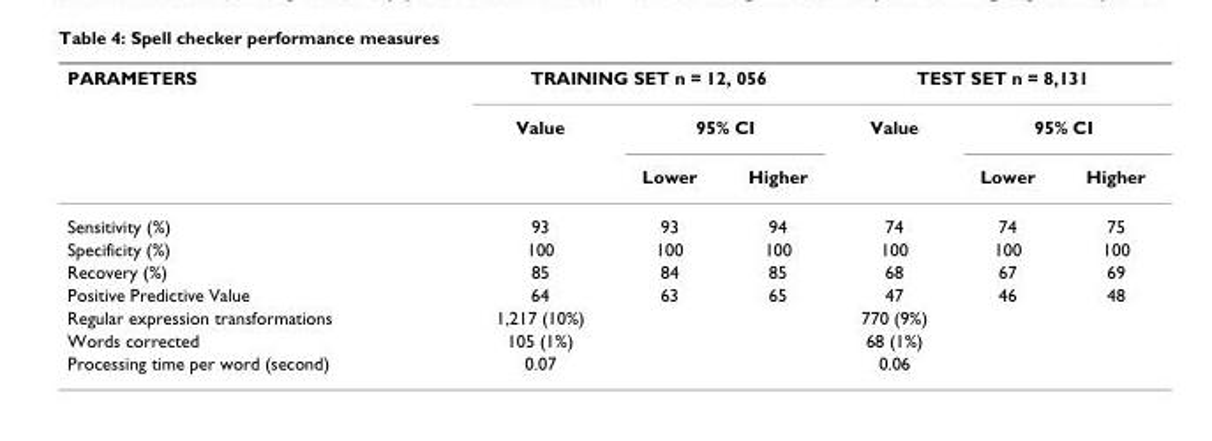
<table><thead><tr><td rowspan="3">PARAMETERS</td><td colspan="3">TRAINING SET n = 12, 056</td><td colspan="3">TEST SET n = 8,131</td></tr><tr><td rowspan="2">Value</td><td colspan="2">95% CI</td><td rowspan="2">Value</td><td colspan="2">95% CI</td></tr><tr><td>Lower</td><td>Higher</td><td>Lower</td><td>Higher</td></tr></thead><tbody><tr><td>Sensitivity (%)</td><td>93</td><td>93</td><td>94</td><td>74</td><td>74</td><td>75</td></tr><tr><td>Specificity (%)</td><td>100</td><td>100</td><td>100</td><td>100</td><td>100</td><td>100</td></tr><tr><td>Recovery (%)</td><td>85</td><td>84</td><td>85</td><td>68</td><td>67</td><td>69</td></tr><tr><td>Positive Predictive Value</td><td>64</td><td>63</td><td>65</td><td>47</td><td>46</td><td>48</td></tr><tr><td>Regular expression transformations</td><td>1,217 (10%)</td><td></td><td></td><td>770 (9%)</td><td></td><td></td></tr><tr><td>Words corrected</td><td>105 (1%)</td><td></td><td></td><td>68 (1%)</td><td></td><td></td></tr><tr><td>Processing time per word (second)</td><td>0.07</td><td></td><td></td><td>0.06</td><td></td><td></td></tr></tbody></table>